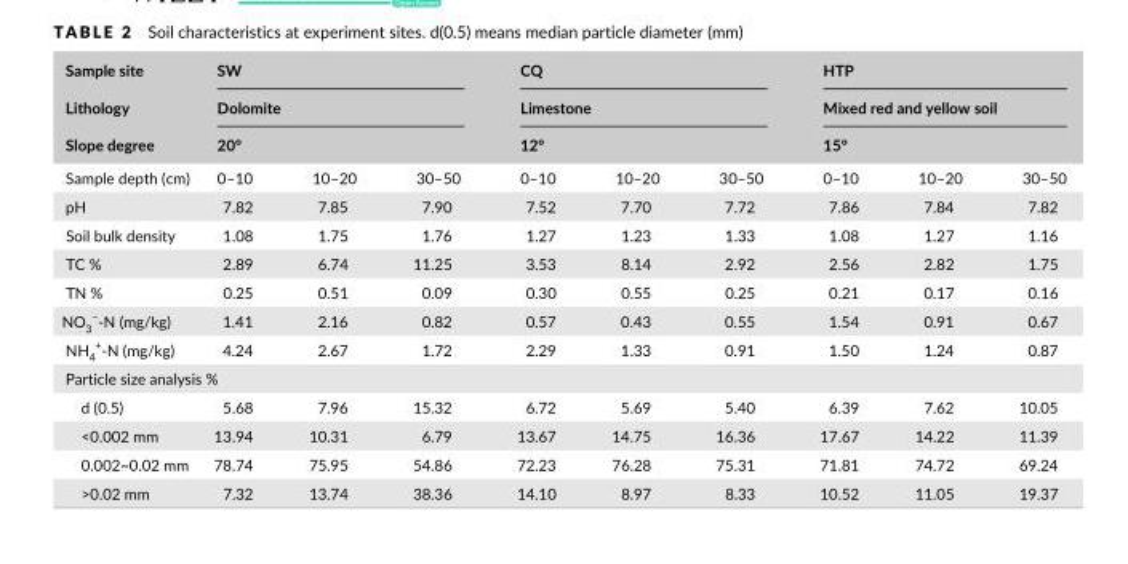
<table><thead><tr><td rowspan="4">Sample site Lithology Slope degree Sample depth (cm)</td><td rowspan="3" colspan="3">SW Dolomite 20°</td><td rowspan="3" colspan="3">CQ Limestone 12°</td><td rowspan="3" colspan="3">HTP Mixed red and yellow soil 15°</td></tr><tr></tr><tr></tr><tr><td>0–10</td><td>10–20</td><td>30–50</td><td>0–10</td><td>10–20</td><td>30–50</td><td>0–10</td><td>10–20</td><td>30–50</td></tr></thead><tbody><tr><td>pH</td><td>7.82</td><td>7.85</td><td>7.90</td><td>7.52</td><td>7.70</td><td>7.72</td><td>7.86</td><td>7.84</td><td>7.82</td></tr><tr><td>Soil bulk density</td><td>1.08</td><td>1.75</td><td>1.76</td><td>1.27</td><td>1.23</td><td>1.33</td><td>1.08</td><td>1.27</td><td>1.16</td></tr><tr><td>TC %</td><td>2.89</td><td>6.74</td><td>11.25</td><td>3.53</td><td>8.14</td><td>2.92</td><td>2.56</td><td>2.82</td><td>1.75</td></tr><tr><td>TN %</td><td>0.25</td><td>0.51</td><td>0.09</td><td>0.30</td><td>0.55</td><td>0.25</td><td>0.21</td><td>0.17</td><td>0.16</td></tr><tr><td>NO<sub>3</sub> <sup>−</sup>- N (mg/kg)</td><td>1.41</td><td>2.16</td><td>0.82</td><td>0.57</td><td>0.43</td><td>0.55</td><td>1.54</td><td>0.91</td><td>0.67</td></tr><tr><td>NH<sub>4</sub> <sup>+</sup>- N (mg/kg)</td><td>4.24</td><td>2.67</td><td>1.72</td><td>2.29</td><td>1.33</td><td>0.91</td><td>1.50</td><td>1.24</td><td>0.87</td></tr><tr><td colspan="10">Particle size analysis %</td></tr><tr><td>d (0.5)</td><td>5.68</td><td>7.96</td><td>15.32</td><td>6.72</td><td>5.69</td><td>5.40</td><td>6.39</td><td>7.62</td><td>10.05</td></tr><tr><td>&lt;0.002 mm</td><td>13.94</td><td>10.31</td><td>6.79</td><td>13.67</td><td>14.75</td><td>16.36</td><td>17.67</td><td>14.22</td><td>11.39</td></tr><tr><td>0.002~0.02 mm</td><td>78.74</td><td>75.95</td><td>54.86</td><td>72.23</td><td>76.28</td><td>75.31</td><td>71.81</td><td>74.72</td><td>69.24</td></tr><tr><td>&gt;0.02 mm</td><td>7.32</td><td>13.74</td><td>38.36</td><td>14.10</td><td>8.97</td><td>8.33</td><td>10.52</td><td>11.05</td><td>19.37</td></tr></tbody></table>